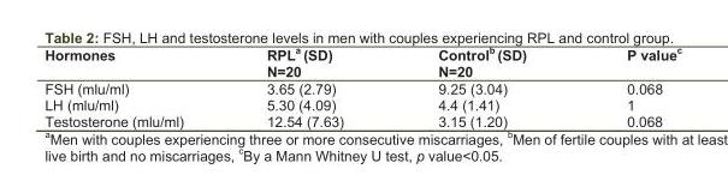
<table><thead><tr><td>Hormones</td><td>RPLa (SD) N=20</td><td>Controlb (SD) N=20</td><td>P valuec</td></tr></thead><tbody><tr><td>FSH (mlu/ml)</td><td>3.65 (2.79)</td><td>9.25 (3.04)</td><td>0.068</td></tr><tr><td>LH (mlu/ml)</td><td>5.30 (4.09)</td><td>4.4 (1.41)</td><td>1</td></tr><tr><td>Testosterone (mlu/ml)</td><td>12.54 (7.63)</td><td>3.15 (1.20)</td><td>0.068</td></tr></tbody></table>